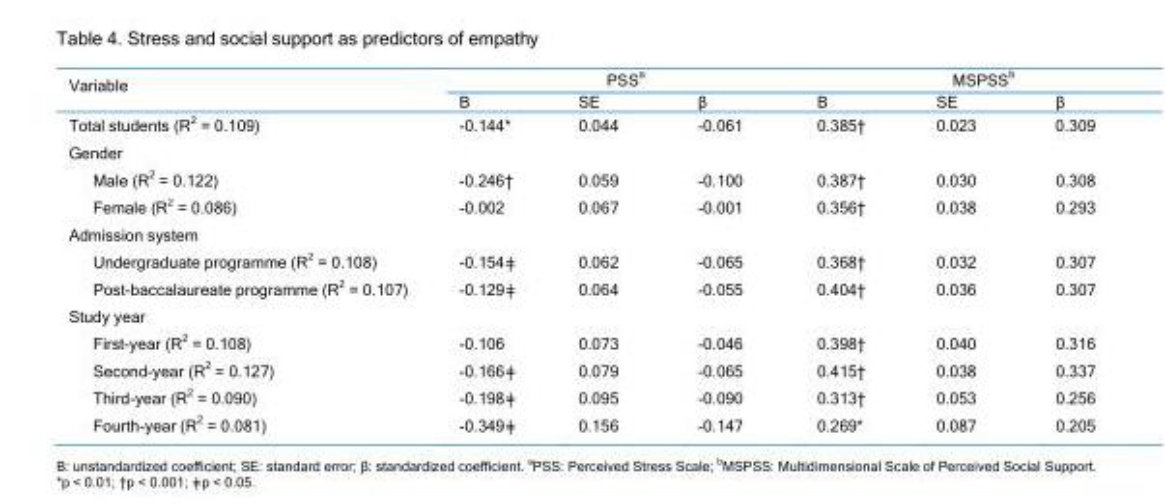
<table><thead><tr><td rowspan="2">Variable</td><td colspan="3">PSS<sup>a</sup></td><td colspan="3">MSPSS<sup>b</sup></td></tr><tr><td>B</td><td>SE</td><td>β</td><td>B</td><td>SE</td><td>β</td></tr></thead><tbody><tr><td>Total students (R<sup>2</sup> = 0.109)</td><td>-0.144*</td><td>0.044</td><td>-0.061</td><td>0.385†</td><td>0.023</td><td>0.309</td></tr><tr><td colspan="7">Gender</td></tr><tr><td>Male (R<sup>2</sup> = 0.122)</td><td>-0.246†</td><td>0.059</td><td>-0.100</td><td>0.387†</td><td>0.030</td><td>0.308</td></tr><tr><td>Female (R<sup>2</sup> = 0.086)</td><td>-0.002</td><td>0.067</td><td>-0.001</td><td>0.356†</td><td>0.038</td><td>0.293</td></tr><tr><td colspan="7">Admission system</td></tr><tr><td>Undergraduate programme (R<sup>2</sup> = 0.108)</td><td>-0.154ǂ</td><td>0.062</td><td>-0.065</td><td>0.368†</td><td>0.032</td><td>0.307</td></tr><tr><td>Post-baccalaureate programme (R<sup>2</sup> = 0.107)</td><td>-0.129ǂ</td><td>0.064</td><td>-0.055</td><td>0.404†</td><td>0.036</td><td>0.307</td></tr><tr><td colspan="7">Study year</td></tr><tr><td>First-year (R<sup>2</sup> = 0.108)</td><td>-0.106</td><td>0.073</td><td>-0.046</td><td>0.398†</td><td>0.040</td><td>0.316</td></tr><tr><td>Second-year (R<sup>2</sup> = 0.127)</td><td>-0.166ǂ</td><td>0.079</td><td>-0.065</td><td>0.415†</td><td>0.038</td><td>0.337</td></tr><tr><td>Third-year (R<sup>2</sup> = 0.090)</td><td>-0.198ǂ</td><td>0.095</td><td>-0.090</td><td>0.313†</td><td>0.053</td><td>0.256</td></tr><tr><td>Fourth-year (R<sup>2</sup> = 0.081)</td><td>-0.349ǂ</td><td>0.156</td><td>-0.147</td><td>0.269*</td><td>0.087</td><td>0.205</td></tr></tbody></table>